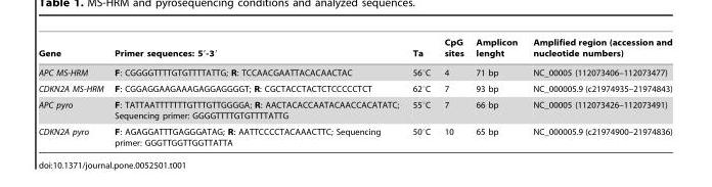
<table><thead><tr><td>Gene</td><td>Primer sequences: 5′-3′</td><td>Ta</td><td>CpG sites</td><td>Amplicon lenght</td><td>Amplified region (accession and nucleotide numbers)</td></tr></thead><tbody><tr><td>APC MS-HRM</td><td>F: CGGGGTTTTGTGTTTTATTG; R: TCCAACGAATTACACAACTAC</td><td>56°C</td><td>4</td><td>71 bp</td><td>NC_00005 (112073406–112073477)</td></tr><tr><td>CDKN2A MS-HRM</td><td>F: CGGAGGAAGAAAGAGGAGGGGT; R: CGCTACCTACTCTCCCCCTCT</td><td>62°C</td><td>7</td><td>93 bp</td><td>NC_000005.9 (c21974935–21974843)</td></tr><tr><td>APC pyro</td><td>F: TATTAATTTTTTTGTTTGTTGGGGA; R: AACTACACCAATACAACCACATATC; Sequencing primer: GGGGTTTTGTGTTTTATTG</td><td>55°C</td><td>7</td><td>66 bp</td><td>NC_00005 (112073426–112073491)</td></tr><tr><td>CDKN2A pyro</td><td>F: AGAGGATTTGAGGGATAG; R: AATTCCCCTACAAACTTC; Sequencing primer: GGGTTGGTTGGTTATTA</td><td>50°C</td><td>10</td><td>65 bp</td><td>NC_000005.9 (c21974900–21974836)</td></tr></tbody></table>